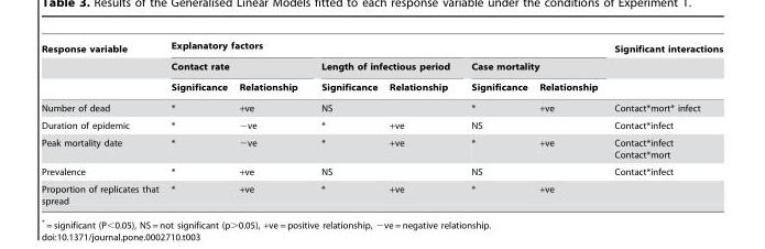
<table><thead><tr><td rowspan="3">Response variable</td><td colspan="6">Explanatory factors</td><td rowspan="3">Significant interactions</td></tr><tr><td colspan="2">Contact rate</td><td colspan="2">Length of infectious period</td><td colspan="2">Case mortality</td></tr><tr><td>Significance</td><td>Relationship</td><td>Significance</td><td>Relationship</td><td>Significance</td><td>Relationship</td></tr></thead><tbody><tr><td>Number of dead</td><td>*</td><td>+ve</td><td>NS</td><td></td><td>*</td><td>+ve</td><td>Contact*mort* infect</td></tr><tr><td>Duration of epidemic</td><td>*</td><td>−ve</td><td>*</td><td>+ve</td><td>NS</td><td></td><td>Contact*infect</td></tr><tr><td>Peak mortality date</td><td>*</td><td>−ve</td><td>*</td><td>+ve</td><td>*</td><td>+ve</td><td>Contact*infect Contact*mort</td></tr><tr><td>Prevalence</td><td>*</td><td>+ve</td><td>NS</td><td></td><td>NS</td><td></td><td>Contact*infect</td></tr><tr><td>Proportion of replicates that spread</td><td>*</td><td>+ve</td><td>*</td><td>+ve</td><td>*</td><td>+ve</td><td></td></tr></tbody></table>